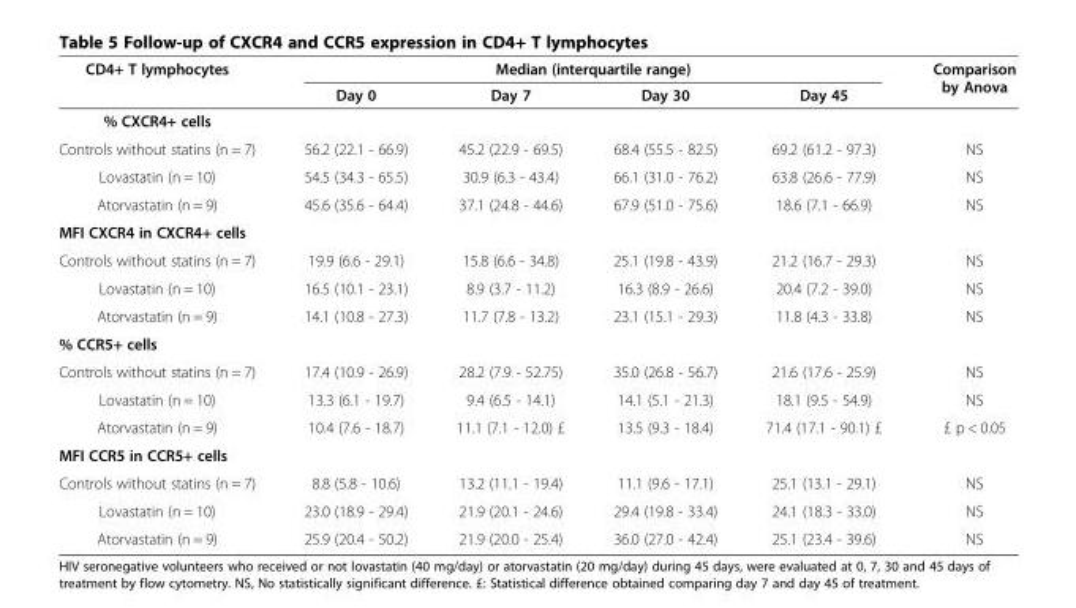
<table><thead><tr><td rowspan="2">CD4+ T lymphocytes</td><td colspan="4">Median (interquartile range)</td><td rowspan="2">Comparison by Anova</td></tr><tr><td>Day 0</td><td>Day 7</td><td>Day 30</td><td>Day 45</td></tr></thead><tbody><tr><td colspan="6">% CXCR4+ cells</td></tr><tr><td>Controls without statins (n = 7)</td><td>56.2 (22.1 - 66.9)</td><td>45.2 (22.9 - 69.5)</td><td>68.4 (55.5 - 82.5)</td><td>69.2 (61.2 - 97.3)</td><td>NS</td></tr><tr><td>Lovastatin (n = 10)</td><td>54.5 (34.3 - 65.5)</td><td>30.9 (6.3 - 43.4)</td><td>66.1 (31.0 - 76.2)</td><td>63.8 (26.6 - 77.9)</td><td>NS</td></tr><tr><td>Atorvastatin (n = 9)</td><td>45.6 (35.6 - 64.4)</td><td>37.1 (24.8 - 44.6)</td><td>67.9 (51.0 - 75.6)</td><td>18.6 (7.1 - 66.9)</td><td>NS</td></tr><tr><td colspan="6">MFI CXCR4 in CXCR4+ cells</td></tr><tr><td>Controls without statins (n = 7)</td><td>19.9 (6.6 - 29.1)</td><td>15.8 (6.6 - 34.8)</td><td>25.1 (19.8 - 43.9)</td><td>21.2 (16.7 - 29.3)</td><td>NS</td></tr><tr><td>Lovastatin (n = 10)</td><td>16.5 (10.1 - 23.1)</td><td>8.9 (3.7 - 11.2)</td><td>16.3 (8.9 - 26.6)</td><td>20.4 (7.2 - 39.0)</td><td>NS</td></tr><tr><td>Atorvastatin (n = 9)</td><td>14.1 (10.8 - 27.3)</td><td>11.7 (7.8 - 13.2)</td><td>23.1 (15.1 - 29.3)</td><td>11.8 (4.3 - 33.8)</td><td>NS</td></tr><tr><td colspan="6">% CCR5+ cells</td></tr><tr><td>Controls without statins (n = 7)</td><td>17.4 (10.9 - 26.9)</td><td>28.2 (7.9 - 52.75)</td><td>35.0 (26.8 - 56.7)</td><td>21.6 (17.6 - 25.9)</td><td>NS</td></tr><tr><td>Lovastatin (n = 10)</td><td>13.3 (6.1 - 19.7)</td><td>9.4 (6.5 - 14.1)</td><td>14.1 (5.1 - 21.3)</td><td>18.1 (9.5 - 54.9)</td><td>NS</td></tr><tr><td>Atorvastatin (n = 9)</td><td>10.4 (7.6 - 18.7)</td><td>11.1 (7.1 - 12.0) £</td><td>13.5 (9.3 - 18.4)</td><td>71.4 (17.1 - 90.1) £</td><td>£ p &lt; 0.05</td></tr><tr><td colspan="6">MFI CCR5 in CCR5+ cells</td></tr><tr><td>Controls without statins (n = 7)</td><td>8.8 (5.8 - 10.6)</td><td>13.2 (11.1 - 19.4)</td><td>11.1 (9.6 - 17.1)</td><td>25.1 (13.1 - 29.1)</td><td>NS</td></tr><tr><td>Lovastatin (n = 10)</td><td>23.0 (18.9 - 29.4)</td><td>21.9 (20.1 - 24.6)</td><td>29.4 (19.8 - 33.4)</td><td>24.1 (18.3 - 33.0)</td><td>NS</td></tr><tr><td>Atorvastatin (n = 9)</td><td>25.9 (20.4 - 50.2)</td><td>21.9 (20.0 - 25.4)</td><td>36.0 (27.0 - 42.4)</td><td>25.1 (23.4 - 39.6)</td><td>NS</td></tr></tbody></table>